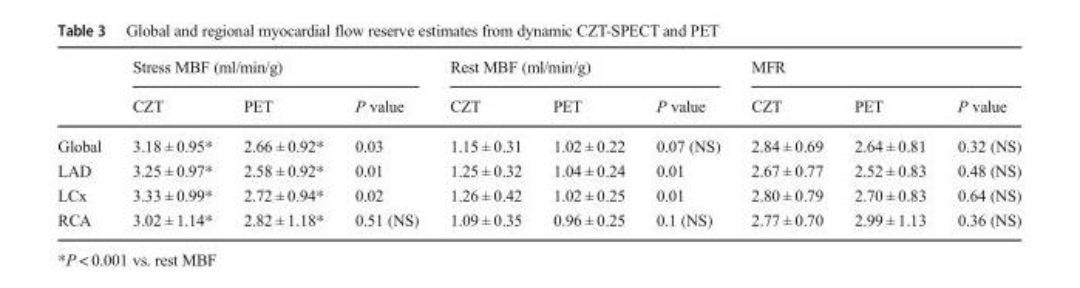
<table><thead><tr><td rowspan="2"></td><td colspan="3">Stress MBF (ml/min/g)</td><td colspan="3">Rest MBF (ml/min/g)</td><td colspan="3">MFR</td></tr><tr><td>CZT</td><td>PET</td><td>P value</td><td>CZT</td><td>PET</td><td>P value</td><td>CZT</td><td>PET</td><td>P value</td></tr></thead><tbody><tr><td>Global</td><td>3.18 ± 0.95*</td><td>2.66 ± 0.92*</td><td>0.03</td><td>1.15 ± 0.31</td><td>1.02 ± 0.22</td><td>0.07 (NS)</td><td>2.84 ± 0.69</td><td>2.64 ± 0.81</td><td>0.32 (NS)</td></tr><tr><td>LAD</td><td>3.25 ± 0.97*</td><td>2.58 ± 0.92*</td><td>0.01</td><td>1.25 ± 0.32</td><td>1.04 ± 0.24</td><td>0.01</td><td>2.67 ± 0.77</td><td>2.52 ± 0.83</td><td>0.48 (NS)</td></tr><tr><td>LCx</td><td>3.33 ± 0.99*</td><td>2.72 ± 0.94*</td><td>0.02</td><td>1.26 ± 0.42</td><td>1.02 ± 0.25</td><td>0.01</td><td>2.80 ± 0.79</td><td>2.70 ± 0.83</td><td>0.64 (NS)</td></tr><tr><td>RCA</td><td>3.02 ± 1.14*</td><td>2.82 ± 1.18*</td><td>0.51 (NS)</td><td>1.09 ± 0.35</td><td>0.96 ± 0.25</td><td>0.1 (NS)</td><td>2.77 ± 0.70</td><td>2.99 ± 1.13</td><td>0.36 (NS)</td></tr></tbody></table>